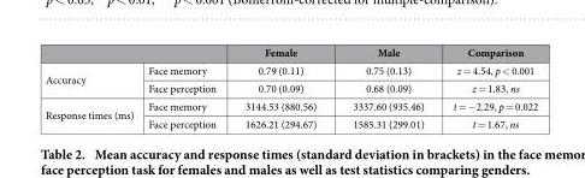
<table><thead><tr><td></td><td></td><td>Female</td><td>Male</td><td>Comparison</td></tr></thead><tbody><tr><td rowspan="2">Accuracy</td><td>Face memory</td><td>0.79 (0.11)</td><td>0.75 (0.13)</td><td>z = 4.54, p &lt; 0.001</td></tr><tr><td>Face perception</td><td>0.70 (0.09)</td><td>0.68 (0.09)</td><td>z = 1.83, ns</td></tr><tr><td rowspan="2">Response times (ms)</td><td>Face memory</td><td>3144.53 (880.56)</td><td>3337.60 (935.46)</td><td>t = − 2.29, p = 0.022</td></tr><tr><td>Face perception</td><td>1626.21 (294.67)</td><td>1585.31 (299.01)</td><td>t = 1.67, ns</td></tr></tbody></table>